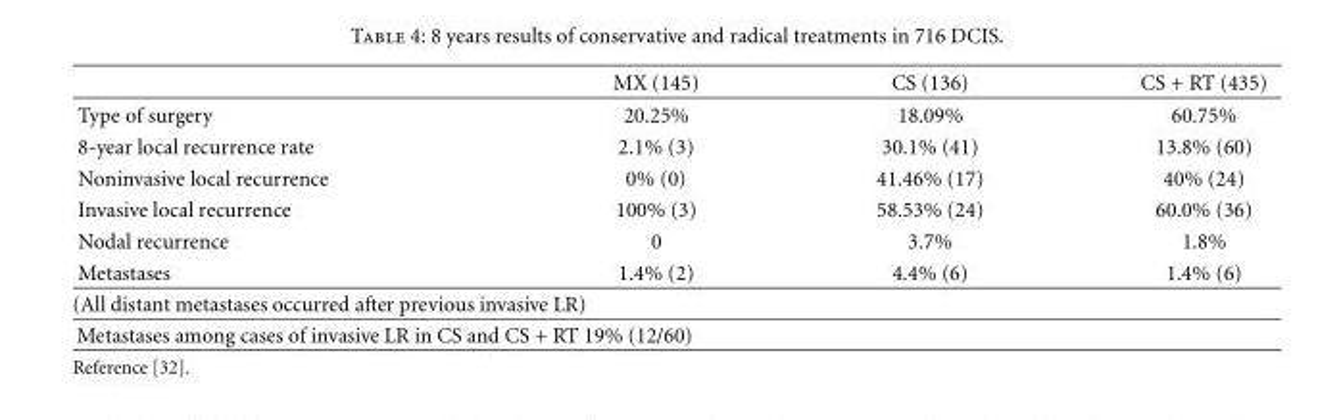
<table><thead><tr><td></td><td>MX (145)</td><td>CS (136)</td><td>CS + RT (435)</td></tr></thead><tbody><tr><td>Type of surgery</td><td>20.25%</td><td>18.09%</td><td>60.75%</td></tr><tr><td>8-year local recurrence rate</td><td>2.1% (3)</td><td>30.1% (41)</td><td>13.8% (60)</td></tr><tr><td>Noninvasive local recurrence</td><td>0% (0)</td><td>41.46% (17)</td><td>40% (24)</td></tr><tr><td>Invasive local recurrence</td><td>100% (3)</td><td>58.53% (24)</td><td>60.0% (36)</td></tr><tr><td>Nodal recurrence</td><td>0</td><td>3.7%</td><td>1.8%</td></tr><tr><td>Metastases</td><td>1.4% (2)</td><td>4.4% (6)</td><td>1.4% (6)</td></tr><tr><td colspan="4">(All distant metastases occurred after previous invasive LR)</td></tr><tr><td colspan="4">Metastases among cases of invasive LR in CS and CS + RT 19% (12/60)</td></tr></tbody></table>